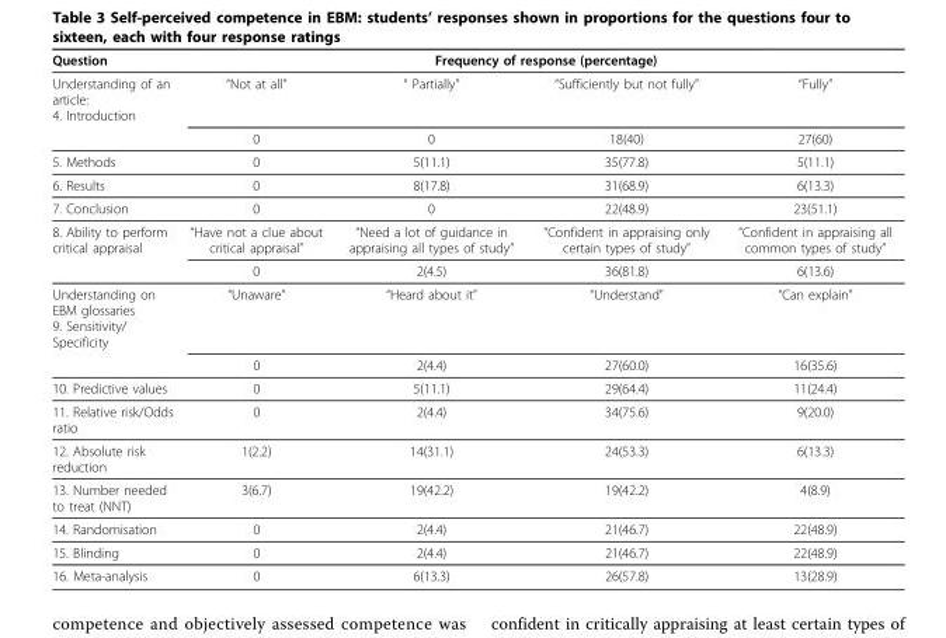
<table><thead><tr><td rowspan="2">Question Understanding of an article: 4. Introduction</td><td colspan="4">Frequency of response (percentage)</td></tr><tr><td>“Not at all”</td><td>“ Partially”</td><td>“Sufficiently but not fully”</td><td>“Fully”</td></tr></thead><tbody><tr><td></td><td>0</td><td>0</td><td>18(40)</td><td>27(60)</td></tr><tr><td>5. Methods</td><td>0</td><td>5(11.1)</td><td>35(77.8)</td><td>5(11.1)</td></tr><tr><td>6. Results</td><td>0</td><td>8(17.8)</td><td>31(68.9)</td><td>6(13.3)</td></tr><tr><td>7. Conclusion</td><td>0</td><td>0</td><td>22(48.9)</td><td>23(51.1)</td></tr><tr><td rowspan="2">8. Ability to perform critical appraisal</td><td>“Have not a clue about critical appraisal”</td><td>“Need a lot of guidance in appraising all types of study”</td><td>“Confident in appraising only certain types of study”</td><td>“Confident in appraising all common types of study”</td></tr><tr><td>0</td><td>2(4.5)</td><td>36(81.8)</td><td>6(13.6)</td></tr><tr><td rowspan="2">Understanding on EBM glossaries 9. Sensitivity/ Specificity</td><td>“Unaware”</td><td>“Heard about it”</td><td>“Understand”</td><td>“Can explain”</td></tr><tr><td>0</td><td>2(4.4)</td><td>27(60.0)</td><td>16(35.6)</td></tr><tr><td>10. Predictive values</td><td>0</td><td>5(11.1)</td><td>29(64.4)</td><td>11(24.4)</td></tr><tr><td>11. Relative risk/Odds ratio</td><td>0</td><td>2(4.4)</td><td>34(75.6)</td><td>9(20.0)</td></tr><tr><td>12. Absolute risk reduction</td><td>1(2.2)</td><td>14(31.1)</td><td>24(53.3)</td><td>6(13.3)</td></tr><tr><td>13. Number needed to treat (NNT)</td><td>3(6.7)</td><td>19(42.2)</td><td>19(42.2)</td><td>4(8.9)</td></tr><tr><td>14. Randomisation</td><td>0</td><td>2(4.4)</td><td>21(46.7)</td><td>22(48.9)</td></tr><tr><td>15. Blinding</td><td>0</td><td>2(4.4)</td><td>21(46.7)</td><td>22(48.9)</td></tr><tr><td>16. Meta-analysis</td><td>0</td><td>6(13.3)</td><td>26(57.8)</td><td>13(28.9)</td></tr></tbody></table>